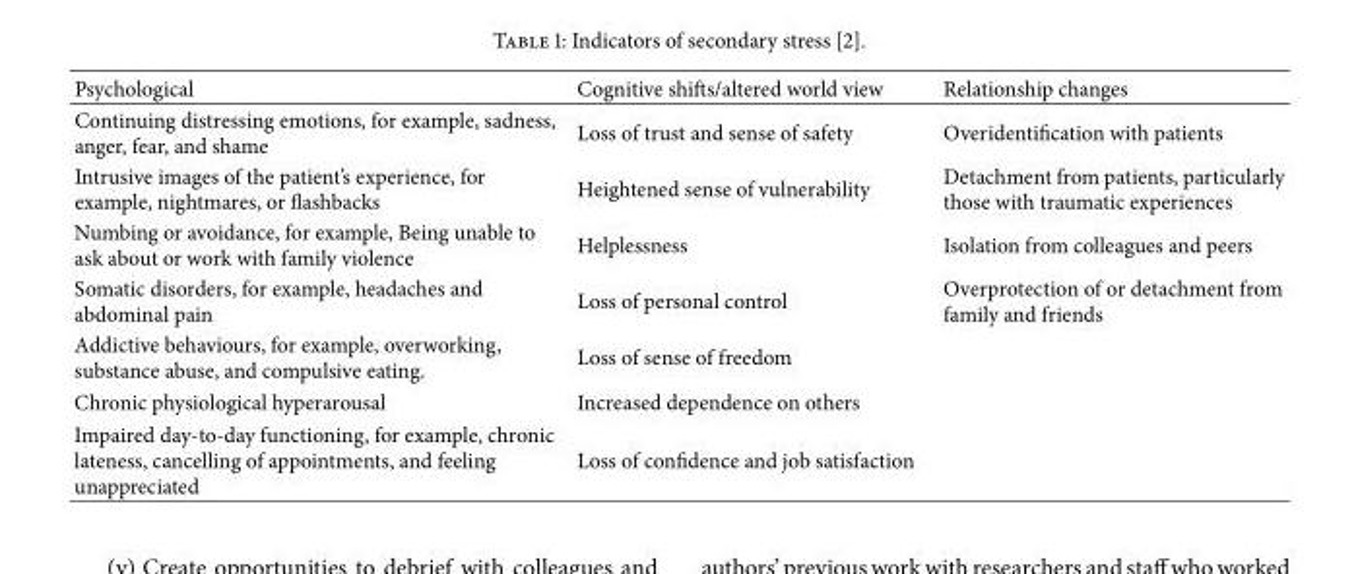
<table><thead><tr><td>Psychological</td><td>Cognitive shifts/altered world view</td><td>Relationship changes</td></tr></thead><tbody><tr><td>Continuing distressing emotions, for example, sadness, anger, fear, and shame</td><td>Loss of trust and sense of safety</td><td>Overidentification with patients</td></tr><tr><td>Intrusive images of the patient’s experience, for example, nightmares, or flashbacks</td><td>Heightened sense of vulnerability</td><td>Detachment from patients, particularly those with traumatic experiences</td></tr><tr><td>Numbing or avoidance, for example, Being unable to ask about or work with family violence</td><td>Helplessness</td><td>Isolation from colleagues and peers</td></tr><tr><td>Somatic disorders, for example, headaches and abdominal pain</td><td>Loss of personal control</td><td>Overprotection of or detachment from family and friends</td></tr><tr><td>Addictive behaviours, for example, overworking, substance abuse, and compulsive eating.</td><td>Loss of sense of freedom</td><td></td></tr><tr><td>Chronic physiological hyperarousal</td><td>Increased dependence on others</td><td></td></tr><tr><td>Impaired day-to-day functioning, for example, chronic lateness, cancelling of appointments, and feeling unappreciated</td><td>Loss of confidence and job satisfaction</td><td></td></tr></tbody></table>